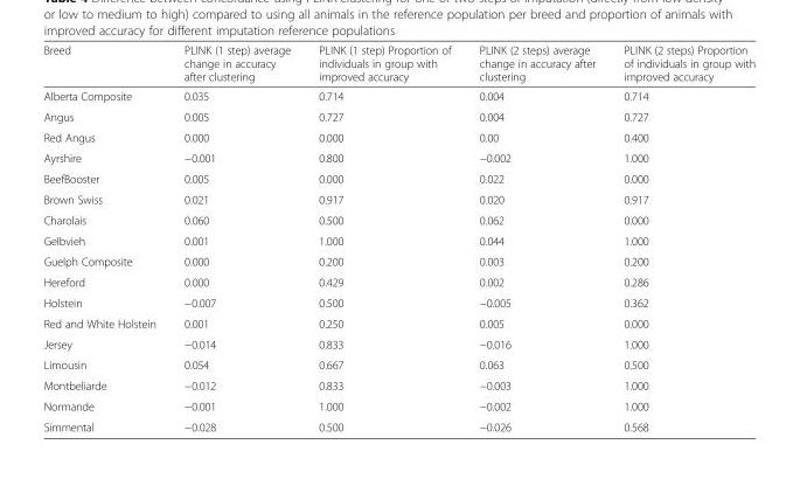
<table><thead><tr><td>Breed</td><td>PLINK (1 step) average change in accuracy after clustering</td><td>PLINK (1 step) Proportion of individuals in group with improved accuracy</td><td>PLINK (2 steps) average change in accuracy after clustering</td><td>PLINK (2 steps) Proportion of individuals in group with improved accuracy</td></tr></thead><tbody><tr><td>Alberta Composite</td><td>0.035</td><td>0.714</td><td>0.004</td><td>0.714</td></tr><tr><td>Angus</td><td>0.005</td><td>0.727</td><td>0.004</td><td>0.727</td></tr><tr><td>Red Angus</td><td>0.000</td><td>0.000</td><td>0.00</td><td>0.400</td></tr><tr><td>Ayrshire</td><td>−0.001</td><td>0.800</td><td>−0.002</td><td>1.000</td></tr><tr><td>BeefBooster</td><td>0.005</td><td>0.000</td><td>0.022</td><td>0.000</td></tr><tr><td>Brown Swiss</td><td>0.021</td><td>0.917</td><td>0.020</td><td>0.917</td></tr><tr><td>Charolais</td><td>0.060</td><td>0.500</td><td>0.062</td><td>0.000</td></tr><tr><td>Gelbvieh</td><td>0.001</td><td>1.000</td><td>0.044</td><td>1.000</td></tr><tr><td>Guelph Composite</td><td>0.000</td><td>0.200</td><td>0.003</td><td>0.200</td></tr><tr><td>Hereford</td><td>0.000</td><td>0.429</td><td>0.002</td><td>0.286</td></tr><tr><td>Holstein</td><td>−0.007</td><td>0.500</td><td>−0.005</td><td>0.362</td></tr><tr><td>Red and White Holstein</td><td>0.001</td><td>0.250</td><td>0.005</td><td>0.000</td></tr><tr><td>Jersey</td><td>−0.014</td><td>0.833</td><td>−0.016</td><td>1.000</td></tr><tr><td>Limousin</td><td>0.054</td><td>0.667</td><td>0.063</td><td>0.500</td></tr><tr><td>Montbeliarde</td><td>−0.012</td><td>0.833</td><td>−0.003</td><td>1.000</td></tr><tr><td>Normande</td><td>−0.001</td><td>1.000</td><td>−0.002</td><td>1.000</td></tr><tr><td>Simmental</td><td>−0.028</td><td>0.500</td><td>−0.026</td><td>0.568</td></tr></tbody></table>